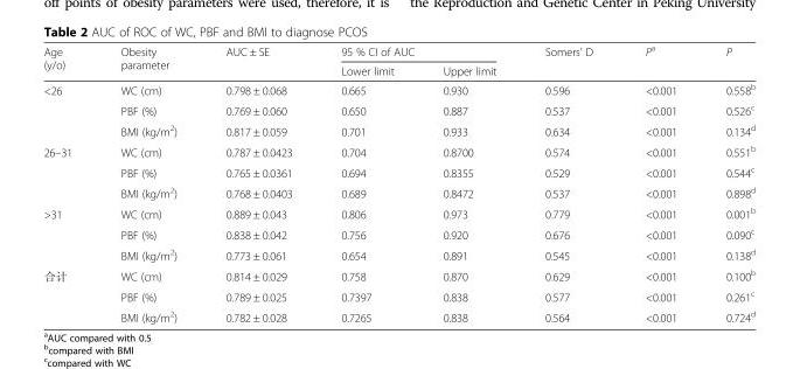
<table><thead><tr><td rowspan="2">Age (y/o)</td><td rowspan="2">Obesity parameter</td><td rowspan="2">AUC ± SE</td><td colspan="2">95 % CI of AUC</td><td rowspan="2">Somers’ D</td><td rowspan="2">P<sup>a</sup></td><td rowspan="2">P</td></tr><tr><td>Lower limit</td><td>Upper limit</td></tr></thead><tbody><tr><td rowspan="3">&lt;26</td><td>WC (cm)</td><td>0.798 ± 0.068</td><td>0.665</td><td>0.930</td><td>0.596</td><td>&lt;0.001</td><td>0.558<sup>b</sup></td></tr><tr><td>PBF (%)</td><td>0.769 ± 0.060</td><td>0.650</td><td>0.887</td><td>0.537</td><td>&lt;0.001</td><td>0.526<sup>c</sup></td></tr><tr><td>BMI (kg/m<sup>2</sup>)</td><td>0.817 ± 0.059</td><td>0.701</td><td>0.933</td><td>0.634</td><td>&lt;0.001</td><td>0.134<sup>d</sup></td></tr><tr><td rowspan="3">26–31</td><td>WC (cm)</td><td>0.787 ± 0.0423</td><td>0.704</td><td>0.8700</td><td>0.574</td><td>&lt;0.001</td><td>0.551<sup>b</sup></td></tr><tr><td>PBF (%)</td><td>0.765 ± 0.0361</td><td>0.694</td><td>0.8355</td><td>0.529</td><td>&lt;0.001</td><td>0.544<sup>c</sup></td></tr><tr><td>BMI (kg/m<sup>2</sup>)</td><td>0.768 ± 0.0403</td><td>0.689</td><td>0.8472</td><td>0.537</td><td>&lt;0.001</td><td>0.898<sup>d</sup></td></tr><tr><td rowspan="3">&gt;31</td><td>WC (cm)</td><td>0.889 ± 0.043</td><td>0.806</td><td>0.973</td><td>0.779</td><td>&lt;0.001</td><td>0.001<sup>b</sup></td></tr><tr><td>PBF (%)</td><td>0.838 ± 0.042</td><td>0.756</td><td>0.920</td><td>0.676</td><td>&lt;0.001</td><td>0.090<sup>c</sup></td></tr><tr><td>BMI (kg/m<sup>2</sup>)</td><td>0.773 ± 0.061</td><td>0.654</td><td>0.891</td><td>0.545</td><td>&lt;0.001</td><td>0.138<sup>d</sup></td></tr><tr><td rowspan="3">合计</td><td>WC (cm)</td><td>0.814 ± 0.029</td><td>0.758</td><td>0.870</td><td>0.629</td><td>&lt;0.001</td><td>0.100<sup>b</sup></td></tr><tr><td>PBF (%)</td><td>0.789 ± 0.025</td><td>0.7397</td><td>0.838</td><td>0.577</td><td>&lt;0.001</td><td>0.261<sup>c</sup></td></tr><tr><td>BMI (kg/m<sup>2</sup>)</td><td>0.782 ± 0.028</td><td>0.7265</td><td>0.838</td><td>0.564</td><td>&lt;0.001</td><td>0.724<sup>d</sup></td></tr></tbody></table>